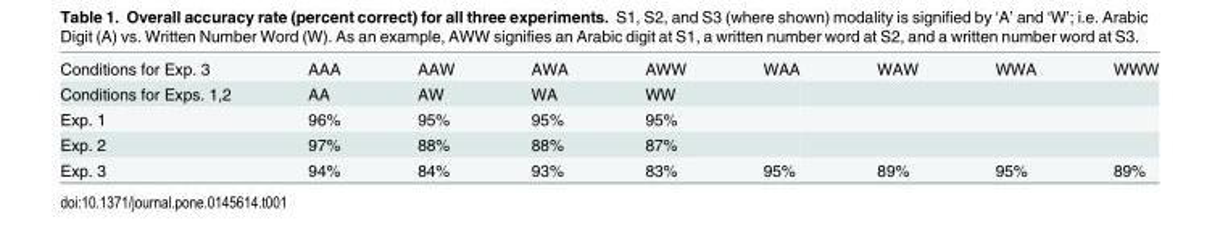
<table><tbody><tr><td>Conditions for Exp. 3</td><td>AAA</td><td>AAW</td><td>AWA</td><td>AWW</td><td>WAA</td><td>WAW</td><td>WWA</td><td>WWW</td></tr><tr><td>Conditions for Exps. 1,2</td><td>AA</td><td>AW</td><td>WA</td><td>WW</td><td></td><td></td><td></td><td></td></tr><tr><td>Exp. 1</td><td>96%</td><td>95%</td><td>95%</td><td>95%</td><td></td><td></td><td></td><td></td></tr><tr><td>Exp. 2</td><td>97%</td><td>88%</td><td>88%</td><td>87%</td><td></td><td></td><td></td><td></td></tr><tr><td>Exp. 3</td><td>94%</td><td>84%</td><td>93%</td><td>83%</td><td>95%</td><td>89%</td><td>95%</td><td>89%</td></tr></tbody></table>